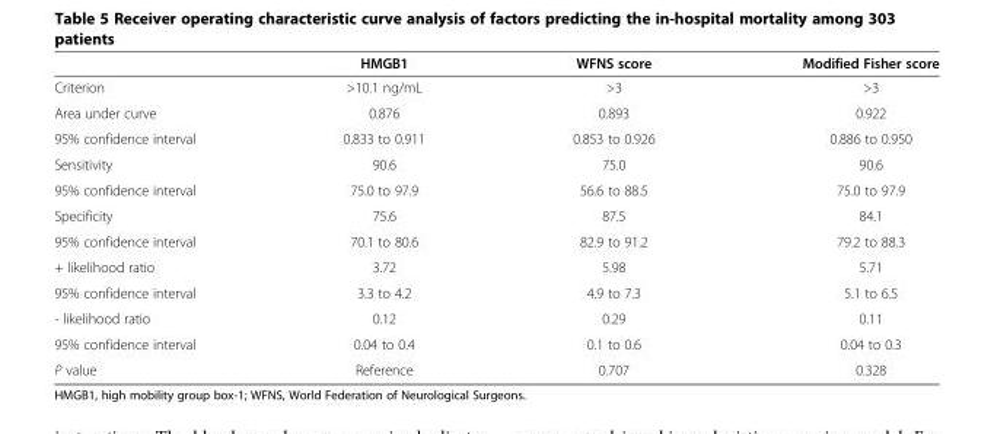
<table><thead><tr><td></td><td>HMGB1</td><td>WFNS score</td><td>Modified Fisher score</td></tr></thead><tbody><tr><td>Criterion</td><td>&gt;10.1 ng/mL</td><td>&gt;3</td><td>&gt;3</td></tr><tr><td>Area under curve</td><td>0.876</td><td>0.893</td><td>0.922</td></tr><tr><td>95% confidence interval</td><td>0.833 to 0.911</td><td>0.853 to 0.926</td><td>0.886 to 0.950</td></tr><tr><td>Sensitivity</td><td>90.6</td><td>75.0</td><td>90.6</td></tr><tr><td>95% confidence interval</td><td>75.0 to 97.9</td><td>56.6 to 88.5</td><td>75.0 to 97.9</td></tr><tr><td>Specificity</td><td>75.6</td><td>87.5</td><td>84.1</td></tr><tr><td>95% confidence interval</td><td>70.1 to 80.6</td><td>82.9 to 91.2</td><td>79.2 to 88.3</td></tr><tr><td>+ likelihood ratio</td><td>3.72</td><td>5.98</td><td>5.71</td></tr><tr><td>95% confidence interval</td><td>3.3 to 4.2</td><td>4.9 to 7.3</td><td>5.1 to 6.5</td></tr><tr><td>- likelihood ratio</td><td>0.12</td><td>0.29</td><td>0.11</td></tr><tr><td>95% confidence interval</td><td>0.04 to 0.4</td><td>0.1 to 0.6</td><td>0.04 to 0.3</td></tr><tr><td>P value</td><td>Reference</td><td>0.707</td><td>0.328</td></tr></tbody></table>